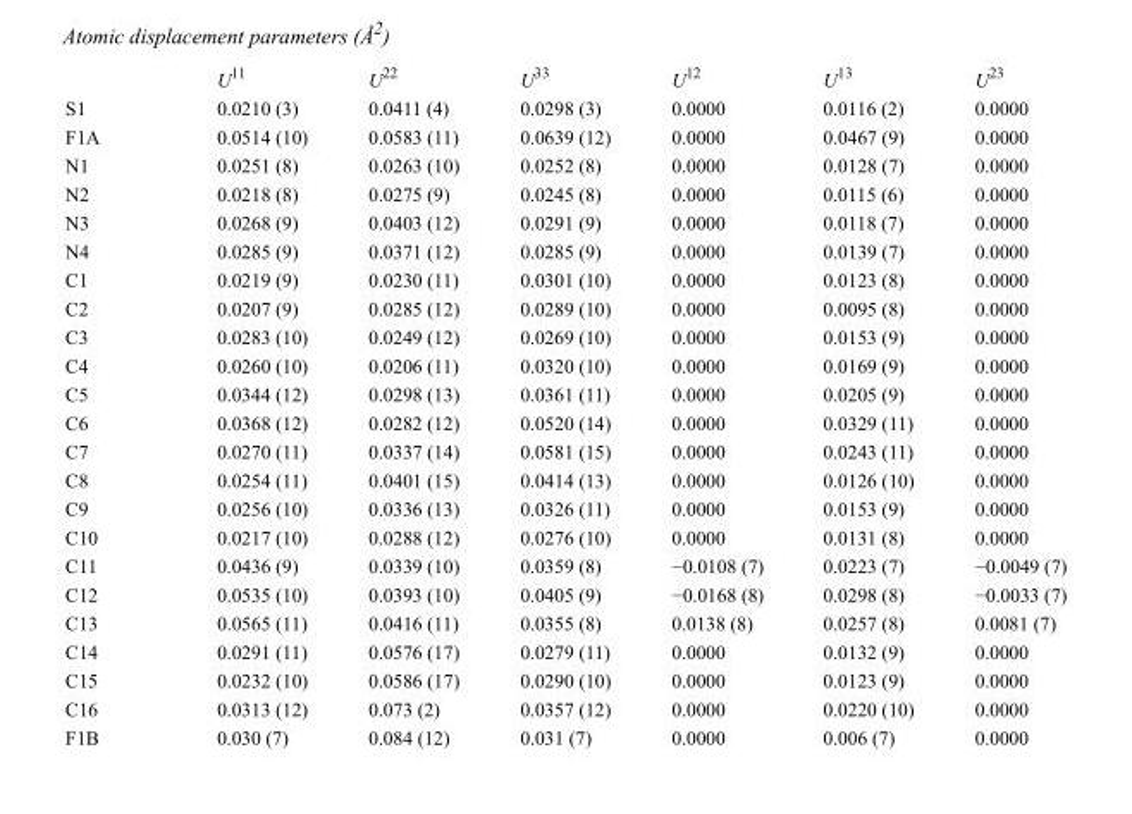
<table><thead><tr><td></td><td>U<sup>11</sup></td><td>U<sup>22</sup></td><td>U<sup>33</sup></td><td>U<sup>12</sup></td><td>U<sup>13</sup></td><td>U<sup>23</sup></td></tr></thead><tbody><tr><td>S1</td><td>0.0210 (3)</td><td>0.0411 (4)</td><td>0.0298 (3)</td><td>0.0000</td><td>0.0116 (2)</td><td>0.0000</td></tr><tr><td>F1A</td><td>0.0514 (10)</td><td>0.0583 (11)</td><td>0.0639 (12)</td><td>0.0000</td><td>0.0467 (9)</td><td>0.0000</td></tr><tr><td>N1</td><td>0.0251 (8)</td><td>0.0263 (10)</td><td>0.0252 (8)</td><td>0.0000</td><td>0.0128 (7)</td><td>0.0000</td></tr><tr><td>N2</td><td>0.0218 (8)</td><td>0.0275 (9)</td><td>0.0245 (8)</td><td>0.0000</td><td>0.0115 (6)</td><td>0.0000</td></tr><tr><td>N3</td><td>0.0268 (9)</td><td>0.0403 (12)</td><td>0.0291 (9)</td><td>0.0000</td><td>0.0118 (7)</td><td>0.0000</td></tr><tr><td>N4</td><td>0.0285 (9)</td><td>0.0371 (12)</td><td>0.0285 (9)</td><td>0.0000</td><td>0.0139 (7)</td><td>0.0000</td></tr><tr><td>C1</td><td>0.0219 (9)</td><td>0.0230 (11)</td><td>0.0301 (10)</td><td>0.0000</td><td>0.0123 (8)</td><td>0.0000</td></tr><tr><td>C2</td><td>0.0207 (9)</td><td>0.0285 (12)</td><td>0.0289 (10)</td><td>0.0000</td><td>0.0095 (8)</td><td>0.0000</td></tr><tr><td>C3</td><td>0.0283 (10)</td><td>0.0249 (12)</td><td>0.0269 (10)</td><td>0.0000</td><td>0.0153 (9)</td><td>0.0000</td></tr><tr><td>C4</td><td>0.0260 (10)</td><td>0.0206 (11)</td><td>0.0320 (10)</td><td>0.0000</td><td>0.0169 (9)</td><td>0.0000</td></tr><tr><td>C5</td><td>0.0344 (12)</td><td>0.0298 (13)</td><td>0.0361 (11)</td><td>0.0000</td><td>0.0205 (9)</td><td>0.0000</td></tr><tr><td>C6</td><td>0.0368 (12)</td><td>0.0282 (12)</td><td>0.0520 (14)</td><td>0.0000</td><td>0.0329 (11)</td><td>0.0000</td></tr><tr><td>C7</td><td>0.0270 (11)</td><td>0.0337 (14)</td><td>0.0581 (15)</td><td>0.0000</td><td>0.0243 (11)</td><td>0.0000</td></tr><tr><td>C8</td><td>0.0254 (11)</td><td>0.0401 (15)</td><td>0.0414 (13)</td><td>0.0000</td><td>0.0126 (10)</td><td>0.0000</td></tr><tr><td>C9</td><td>0.0256 (10)</td><td>0.0336 (13)</td><td>0.0326 (11)</td><td>0.0000</td><td>0.0153 (9)</td><td>0.0000</td></tr><tr><td>C10</td><td>0.0217 (10)</td><td>0.0288 (12)</td><td>0.0276 (10)</td><td>0.0000</td><td>0.0131 (8)</td><td>0.0000</td></tr><tr><td>C11</td><td>0.0436 (9)</td><td>0.0339 (10)</td><td>0.0359 (8)</td><td>−0.0108 (7)</td><td>0.0223 (7)</td><td>−0.0049 (7)</td></tr><tr><td>C12</td><td>0.0535 (10)</td><td>0.0393 (10)</td><td>0.0405 (9)</td><td>−0.0168 (8)</td><td>0.0298 (8)</td><td>−0.0033 (7)</td></tr><tr><td>C13</td><td>0.0565 (11)</td><td>0.0416 (11)</td><td>0.0355 (8)</td><td>0.0138 (8)</td><td>0.0257 (8)</td><td>0.0081 (7)</td></tr><tr><td>C14</td><td>0.0291 (11)</td><td>0.0576 (17)</td><td>0.0279 (11)</td><td>0.0000</td><td>0.0132 (9)</td><td>0.0000</td></tr><tr><td>C15</td><td>0.0232 (10)</td><td>0.0586 (17)</td><td>0.0290 (10)</td><td>0.0000</td><td>0.0123 (9)</td><td>0.0000</td></tr><tr><td>C16</td><td>0.0313 (12)</td><td>0.073 (2)</td><td>0.0357 (12)</td><td>0.0000</td><td>0.0220 (10)</td><td>0.0000</td></tr><tr><td>F1B</td><td>0.030 (7)</td><td>0.084 (12)</td><td>0.031 (7)</td><td>0.0000</td><td>0.006 (7)</td><td>0.0000</td></tr></tbody></table>